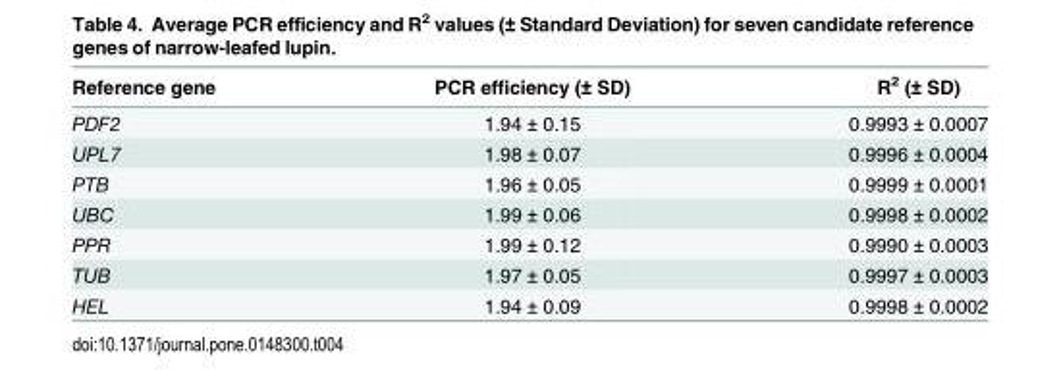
<table><thead><tr><td>Reference gene</td><td>PCR efficiency (± SD)</td><td>R<sup>2</sup> (± SD)</td></tr></thead><tbody><tr><td>PDF2</td><td>1.94 ± 0.15</td><td>0.9993 ± 0.0007</td></tr><tr><td>UPL7</td><td>1.98 ± 0.07</td><td>0.9996 ± 0.0004</td></tr><tr><td>PTB</td><td>1.96 ± 0.05</td><td>0.9999 ± 0.0001</td></tr><tr><td>UBC</td><td>1.99 ± 0.06</td><td>0.9998 ± 0.0002</td></tr><tr><td>PPR</td><td>1.99 ± 0.12</td><td>0.9990 ± 0.0003</td></tr><tr><td>TUB</td><td>1.97 ± 0.05</td><td>0.9997 ± 0.0003</td></tr><tr><td>HEL</td><td>1.94 ± 0.09</td><td>0.9998 ± 0.0002</td></tr></tbody></table>